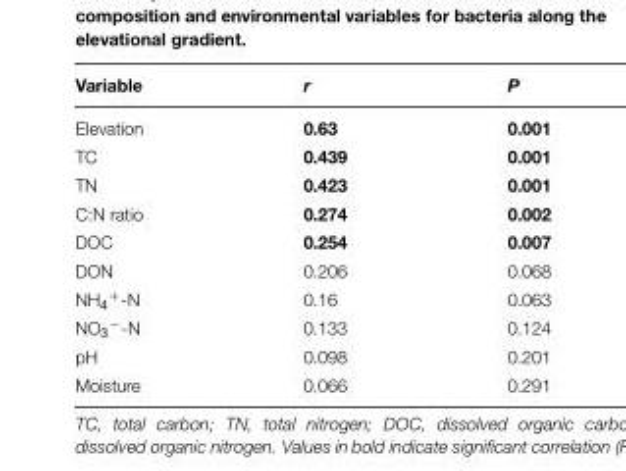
<table><thead><tr><td>Variable</td><td>r</td><td>P</td></tr></thead><tbody><tr><td>Elevation</td><td>0.63</td><td>0.001</td></tr><tr><td>TC</td><td>0.439</td><td>0.001</td></tr><tr><td>TN</td><td>0.423</td><td>0.001</td></tr><tr><td>C:N ratio</td><td>0.274</td><td>0.002</td></tr><tr><td>DOC</td><td>0.254</td><td>0.007</td></tr><tr><td>DON</td><td>0.206</td><td>0.068</td></tr><tr><td>NH<sub>4</sub><sup>+</sup>-N</td><td>0.16</td><td>0.063</td></tr><tr><td>NO<sub>3</sub><sup>−</sup>-N</td><td>0.133</td><td>0.124</td></tr><tr><td>pH</td><td>0.098</td><td>0.201</td></tr><tr><td>Moisture</td><td>0.066</td><td>0.291</td></tr></tbody></table>